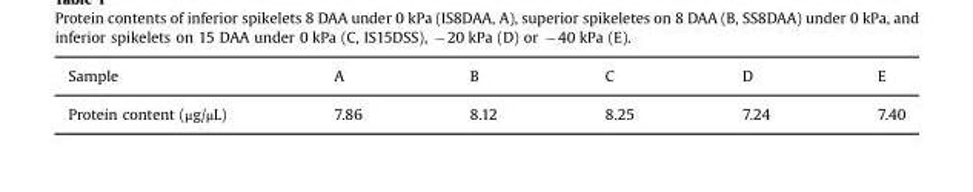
<table><thead><tr><td>Sample</td><td>A</td><td>B</td><td>C</td><td>D</td><td>E</td></tr></thead><tbody><tr><td>Protein content (μg/μL)</td><td>7.86</td><td>8.12</td><td>8.25</td><td>7.24</td><td>7.40</td></tr></tbody></table>